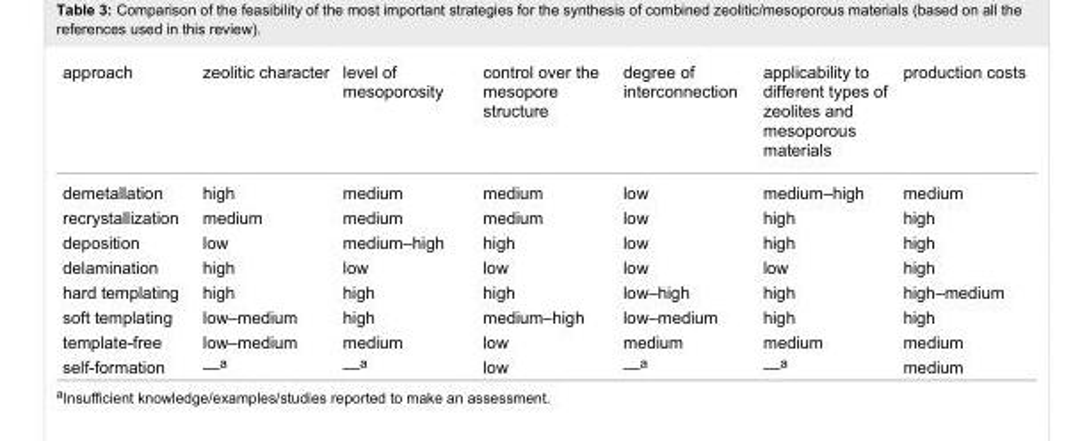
<table><tbody><tr><td>approach</td><td>zeolitic character</td><td>level of mesoporosity</td><td>control over the mesopore structure</td><td>degree of interconnection</td><td>applicability to different types of zeolites and mesoporous materials</td><td>production costs</td></tr><tr><td>demetallation</td><td>high</td><td>medium</td><td>medium</td><td>low</td><td>medium–high</td><td>medium</td></tr><tr><td>recrystallization</td><td>medium</td><td>medium</td><td>medium</td><td>low</td><td>high</td><td>high</td></tr><tr><td>deposition</td><td>low</td><td>medium–high</td><td>high</td><td>low</td><td>high</td><td>high</td></tr><tr><td>delamination</td><td>high</td><td>low</td><td>low</td><td>low</td><td>low</td><td>high</td></tr><tr><td>hard templating</td><td>high</td><td>high</td><td>high</td><td>low–high</td><td>high</td><td>high–medium</td></tr><tr><td>soft templating</td><td>low–medium</td><td>high</td><td>medium–high</td><td>low–medium</td><td>high</td><td>high</td></tr><tr><td>template-free</td><td>low–medium</td><td>medium</td><td>low</td><td>medium</td><td>medium</td><td>medium</td></tr><tr><td>self-formation</td><td>—<sup>a</sup></td><td>—<sup>a</sup></td><td>low</td><td>—<sup>a</sup></td><td>—<sup>a</sup></td><td>medium</td></tr></tbody></table>